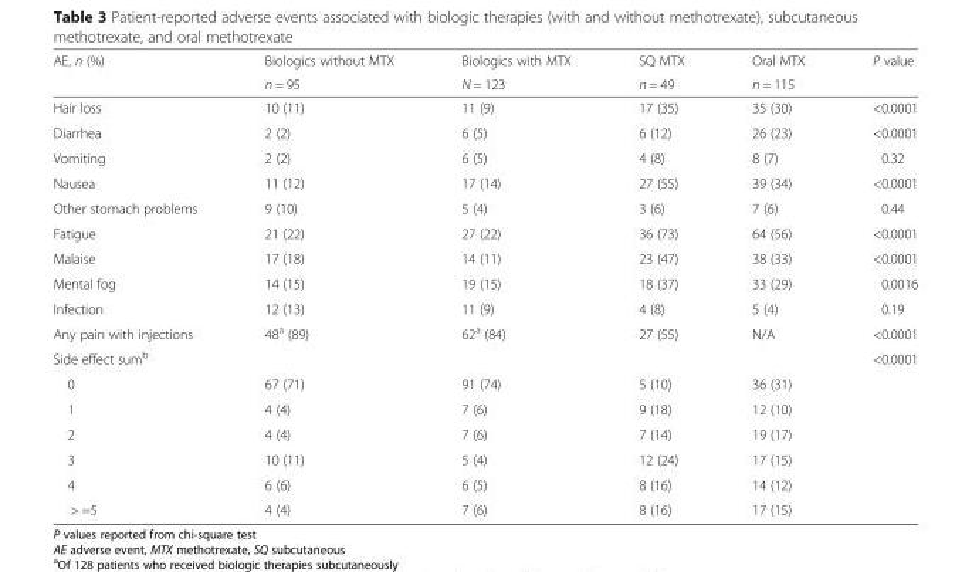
<table><thead><tr><td rowspan="2">AE, n (%)</td><td rowspan="2">Biologics without MTX n = 95</td><td rowspan="2">Biologics with MTX N = 123</td><td rowspan="2">SQ MTX n = 49</td><td rowspan="2">Oral MTX n = 115</td><td rowspan="2">P value</td></tr><tr></tr></thead><tbody><tr><td>Hair loss</td><td>10 (11)</td><td>11 (9)</td><td>17 (35)</td><td>35 (30)</td><td>&lt;0.0001</td></tr><tr><td>Diarrhea</td><td>2 (2)</td><td>6 (5)</td><td>6 (12)</td><td>26 (23)</td><td>&lt;0.0001</td></tr><tr><td>Vomiting</td><td>2 (2)</td><td>6 (5)</td><td>4 (8)</td><td>8 (7)</td><td>0.32</td></tr><tr><td>Nausea</td><td>11 (12)</td><td>17 (14)</td><td>27 (55)</td><td>39 (34)</td><td>&lt;0.0001</td></tr><tr><td>Other stomach problems</td><td>9 (10)</td><td>5 (4)</td><td>3 (6)</td><td>7 (6)</td><td>0.44</td></tr><tr><td>Fatigue</td><td>21 (22)</td><td>27 (22)</td><td>36 (73)</td><td>64 (56)</td><td>&lt;0.0001</td></tr><tr><td>Malaise</td><td>17 (18)</td><td>14 (11)</td><td>23 (47)</td><td>38 (33)</td><td>&lt;0.0001</td></tr><tr><td>Mental fog</td><td>14 (15)</td><td>19 (15)</td><td>18 (37)</td><td>33 (29)</td><td>0.0016</td></tr><tr><td>Infection</td><td>12 (13)</td><td>11 (9)</td><td>4 (8)</td><td>5 (4)</td><td>0.19</td></tr><tr><td>Any pain with injections</td><td>48<sup>a</sup> (89)</td><td>62<sup>a</sup> (84)</td><td>27 (55)</td><td>N/A</td><td>&lt;0.0001</td></tr><tr><td>Side effect sum<sup>b</sup></td><td></td><td></td><td></td><td></td><td>&lt;0.0001</td></tr><tr><td>0</td><td>67 (71)</td><td>91 (74)</td><td>5 (10)</td><td>36 (31)</td><td rowspan="6"></td></tr><tr><td>1</td><td>4 (4)</td><td>7 (6)</td><td>9 (18)</td><td>12 (10)</td></tr><tr><td>2</td><td>4 (4)</td><td>7 (6)</td><td>7 (14)</td><td>19 (17)</td></tr><tr><td>3</td><td>10 (11)</td><td>5 (4)</td><td>12 (24)</td><td>17 (15)</td></tr><tr><td>4</td><td>6 (6)</td><td>6 (5)</td><td>8 (16)</td><td>14 (12)</td></tr><tr><td>&gt; =5</td><td>4 (4)</td><td>7 (6)</td><td>8 (16)</td><td>17 (15)</td></tr></tbody></table>